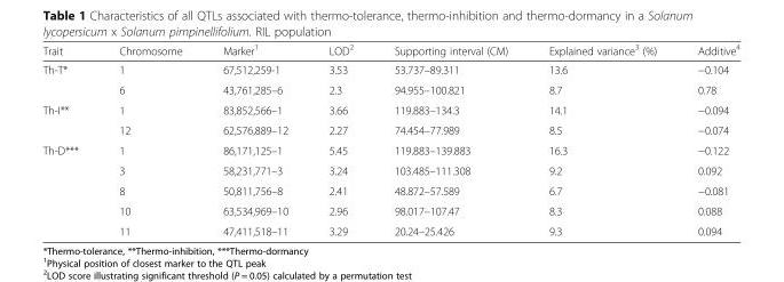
<table><thead><tr><td>Trait</td><td>Chromosome</td><td>Marker<sup>1</sup></td><td>LOD<sup>2</sup></td><td>Supporting interval (CM)</td><td>Explained variance<sup>3</sup> (%)</td><td>Additive<sup>4</sup></td></tr></thead><tbody><tr><td rowspan="2">Th-T*</td><td>1</td><td>67,512,259-1</td><td>3.53</td><td>53.737–89.311</td><td>13.6</td><td>−0.104</td></tr><tr><td>6</td><td>43,761,285–6</td><td>2.3</td><td>94.955–100.821</td><td>8.7</td><td>0.78</td></tr><tr><td rowspan="2">Th-I**</td><td>1</td><td>83,852,566–1</td><td>3.66</td><td>119.883–134.3</td><td>14.1</td><td>−0.094</td></tr><tr><td>12</td><td>62,576,889–12</td><td>2.27</td><td>74.454–77.989</td><td>8.5</td><td>−0.074</td></tr><tr><td rowspan="5">Th-D***</td><td>1</td><td>86,171,125–1</td><td>5.45</td><td>119.883–139.883</td><td>16.3</td><td>−0.122</td></tr><tr><td>3</td><td>58,231,771–3</td><td>3.24</td><td>103.485–111.308</td><td>9.2</td><td>0.092</td></tr><tr><td>8</td><td>50,811,756–8</td><td>2.41</td><td>48.872–57.589</td><td>6.7</td><td>−0.081</td></tr><tr><td>10</td><td>63,534,969–10</td><td>2.96</td><td>98.017–107.47</td><td>8.3</td><td>0.088</td></tr><tr><td>11</td><td>47,411,518–11</td><td>3.29</td><td>20.24–25.426</td><td>9.3</td><td>0.094</td></tr></tbody></table>